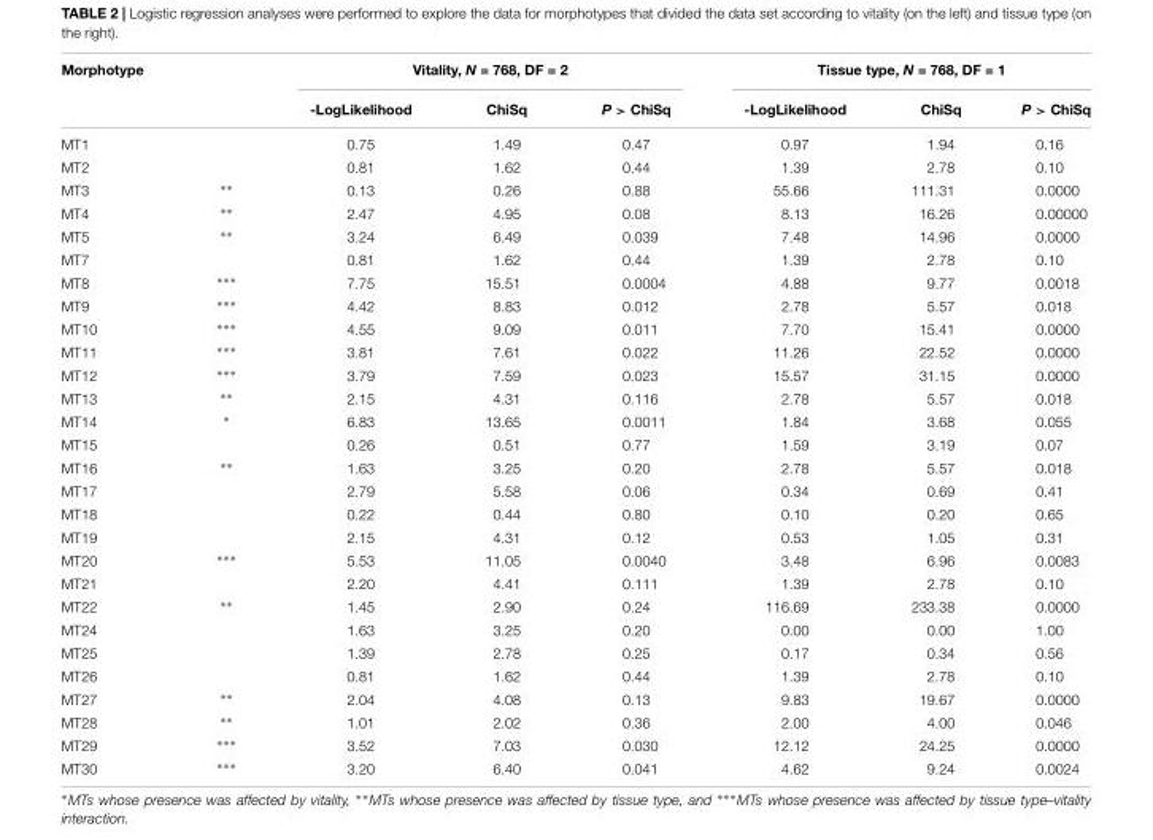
<table><thead><tr><td rowspan="2">Morphotype</td><td rowspan="2"></td><td colspan="3">Vitality, N = 768, DF = 2</td><td colspan="3">Tissue type, N = 768, DF = 1</td></tr><tr><td>-LogLikelihood</td><td>ChiSq</td><td>P &gt; ChiSq</td><td>-LogLikelihood</td><td>ChiSq</td><td>P &gt; ChiSq</td></tr></thead><tbody><tr><td>MT1</td><td></td><td>0.75</td><td>1.49</td><td>0.47</td><td>0.97</td><td>1.94</td><td>0.16</td></tr><tr><td>MT2</td><td></td><td>0.81</td><td>1.62</td><td>0.44</td><td>1.39</td><td>2.78</td><td>0.10</td></tr><tr><td>MT3</td><td>∗∗</td><td>0.13</td><td>0.26</td><td>0.88</td><td>55.66</td><td>111.31</td><td>0.0000</td></tr><tr><td>MT4</td><td>∗∗</td><td>2.47</td><td>4.95</td><td>0.08</td><td>8.13</td><td>16.26</td><td>0.00000</td></tr><tr><td>MT5</td><td>∗∗</td><td>3.24</td><td>6.49</td><td>0.039</td><td>7.48</td><td>14.96</td><td>0.0000</td></tr><tr><td>MT7</td><td></td><td>0.81</td><td>1.62</td><td>0.44</td><td>1.39</td><td>2.78</td><td>0.10</td></tr><tr><td>MT8</td><td>∗∗∗</td><td>7.75</td><td>15.51</td><td>0.0004</td><td>4.88</td><td>9.77</td><td>0.0018</td></tr><tr><td>MT9</td><td>∗∗∗</td><td>4.42</td><td>8.83</td><td>0.012</td><td>2.78</td><td>5.57</td><td>0.018</td></tr><tr><td>MT10</td><td>∗∗∗</td><td>4.55</td><td>9.09</td><td>0.011</td><td>7.70</td><td>15.41</td><td>0.0000</td></tr><tr><td>MT11</td><td>∗∗∗</td><td>3.81</td><td>7.61</td><td>0.022</td><td>11.26</td><td>22.52</td><td>0.0000</td></tr><tr><td>MT12</td><td>∗∗∗</td><td>3.79</td><td>7.59</td><td>0.023</td><td>15.57</td><td>31.15</td><td>0.0000</td></tr><tr><td>MT13</td><td>∗∗</td><td>2.15</td><td>4.31</td><td>0.116</td><td>2.78</td><td>5.57</td><td>0.018</td></tr><tr><td>MT14</td><td>∗</td><td>6.83</td><td>13.65</td><td>0.0011</td><td>1.84</td><td>3.68</td><td>0.055</td></tr><tr><td>MT15</td><td></td><td>0.26</td><td>0.51</td><td>0.77</td><td>1.59</td><td>3.19</td><td>0.07</td></tr><tr><td>MT16</td><td>∗∗</td><td>1.63</td><td>3.25</td><td>0.20</td><td>2.78</td><td>5.57</td><td>0.018</td></tr><tr><td>MT17</td><td></td><td>2.79</td><td>5.58</td><td>0.06</td><td>0.34</td><td>0.69</td><td>0.41</td></tr><tr><td>MT18</td><td></td><td>0.22</td><td>0.44</td><td>0.80</td><td>0.10</td><td>0.20</td><td>0.65</td></tr><tr><td>MT19</td><td></td><td>2.15</td><td>4.31</td><td>0.12</td><td>0.53</td><td>1.05</td><td>0.31</td></tr><tr><td>MT20</td><td>∗∗∗</td><td>5.53</td><td>11.05</td><td>0.0040</td><td>3.48</td><td>6.96</td><td>0.0083</td></tr><tr><td>MT21</td><td></td><td>2.20</td><td>4.41</td><td>0.111</td><td>1.39</td><td>2.78</td><td>0.10</td></tr><tr><td>MT22</td><td>∗∗</td><td>1.45</td><td>2.90</td><td>0.24</td><td>116.69</td><td>233.38</td><td>0.0000</td></tr><tr><td>MT24</td><td></td><td>1.63</td><td>3.25</td><td>0.20</td><td>0.00</td><td>0.00</td><td>1.00</td></tr><tr><td>MT25</td><td></td><td>1.39</td><td>2.78</td><td>0.25</td><td>0.17</td><td>0.34</td><td>0.56</td></tr><tr><td>MT26</td><td></td><td>0.81</td><td>1.62</td><td>0.44</td><td>1.39</td><td>2.78</td><td>0.10</td></tr><tr><td>MT27</td><td>∗∗</td><td>2.04</td><td>4.08</td><td>0.13</td><td>9.83</td><td>19.67</td><td>0.0000</td></tr><tr><td>MT28</td><td>∗∗</td><td>1.01</td><td>2.02</td><td>0.36</td><td>2.00</td><td>4.00</td><td>0.046</td></tr><tr><td>MT29</td><td>∗∗∗</td><td>3.52</td><td>7.03</td><td>0.030</td><td>12.12</td><td>24.25</td><td>0.0000</td></tr><tr><td>MT30</td><td>∗∗∗</td><td>3.20</td><td>6.40</td><td>0.041</td><td>4.62</td><td>9.24</td><td>0.0024</td></tr></tbody></table>